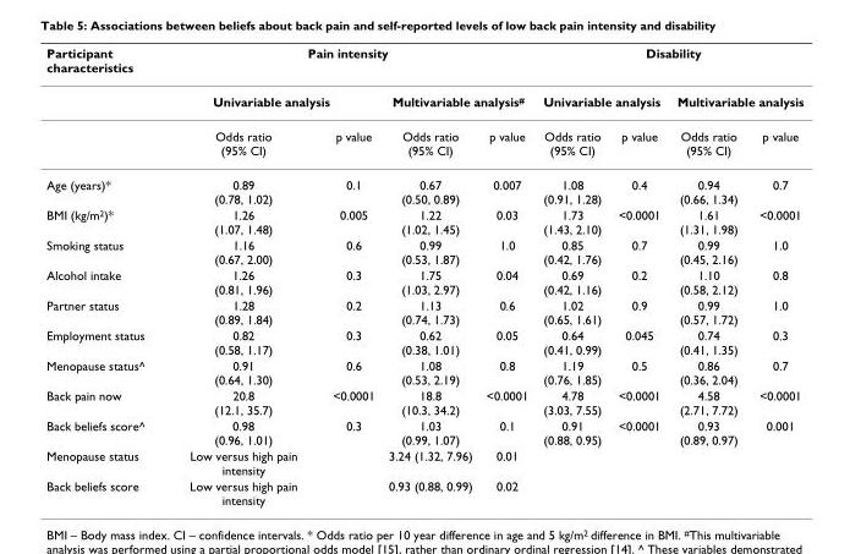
<table><thead><tr><td rowspan="3">Participant characteristics</td><td colspan="4">Pain intensity</td><td colspan="4">Disability</td></tr><tr><td colspan="2">Univariable analysis</td><td colspan="2">Multivariable analysis<sup>#</sup></td><td colspan="2">Univariable analysis</td><td colspan="2">Multivariable analysis</td></tr><tr><td>Odds ratio (95% CI)</td><td>p value</td><td>Odds ratio (95% CI)</td><td>p value</td><td>Odds ratio (95% CI)</td><td>p value</td><td>Odds ratio (95% CI)</td><td>p value</td></tr></thead><tbody><tr><td>Age (years)*</td><td>0.89 (0.78, 1.02)</td><td>0.1</td><td>0.67 (0.50, 0.89)</td><td>0.007</td><td>1.08 (0.91, 1.28)</td><td>0.4</td><td>0.94 (0.66, 1.34)</td><td>0.7</td></tr><tr><td>BMI (kg/m<sup>2</sup>)*</td><td>1.26 (1.07, 1.48)</td><td>0.005</td><td>1.22 (1.02, 1.45)</td><td>0.03</td><td>1.73 (1.43, 2.10)</td><td>&lt;0.0001</td><td>1.61 (1.31, 1.98)</td><td>&lt;0.0001</td></tr><tr><td>Smoking status</td><td>1.16 (0.67, 2.00)</td><td>0.6</td><td>0.99 (0.53, 1.87)</td><td>1.0</td><td>0.85 (0.42, 1.76)</td><td>0.7</td><td>0.99 (0.45, 2.16)</td><td>1.0</td></tr><tr><td>Alcohol intake</td><td>1.26 (0.81, 1.96)</td><td>0.3</td><td>1.75 (1.03, 2.97)</td><td>0.04</td><td>0.69 (0.42, 1.16)</td><td>0.2</td><td>1.10 (0.58, 2.12)</td><td>0.8</td></tr><tr><td>Partner status</td><td>1.28 (0.89, 1.84)</td><td>0.2</td><td>1.13 (0.74, 1.73)</td><td>0.6</td><td>1.02 (0.65, 1.61)</td><td>0.9</td><td>0.99 (0.57, 1.72)</td><td>1.0</td></tr><tr><td>Employment status</td><td>0.82 (0.58, 1.17)</td><td>0.3</td><td>0.62 (0.38, 1.01)</td><td>0.05</td><td>0.64 (0.41, 0.99)</td><td>0.045</td><td>0.74 (0.41, 1.35)</td><td>0.3</td></tr><tr><td>Menopause status^</td><td>0.91 (0.64, 1.30)</td><td>0.6</td><td>1.08 (0.53, 2.19)</td><td>0.8</td><td>1.19 (0.76, 1.85)</td><td>0.5</td><td>0.86 (0.36, 2.04)</td><td>0.7</td></tr><tr><td>Back pain now</td><td>20.8 (12.1, 35.7)</td><td>&lt;0.0001</td><td>18.8 (10.3, 34.2)</td><td>&lt;0.0001</td><td>4.78 (3.03, 7.55)</td><td>&lt;0.0001</td><td>4.58 (2.71, 7.72)</td><td>&lt;0.0001</td></tr><tr><td>Back beliefs score^</td><td>0.98 (0.96, 1.01)</td><td>0.3</td><td>1.03 (0.99, 1.07)</td><td>0.1</td><td>0.91 (0.88, 0.95)</td><td>&lt;0.0001</td><td>0.93 (0.89, 0.97)</td><td>0.001</td></tr><tr><td>Menopause status</td><td>Low versus high pain intensity</td><td></td><td>3.24 (1.32, 7.96)</td><td>0.01</td><td></td><td></td><td></td><td></td></tr><tr><td>Back beliefs score</td><td>Low versus high pain intensity</td><td></td><td>0.93 (0.88, 0.99)</td><td>0.02</td><td></td><td></td><td></td><td></td></tr></tbody></table>